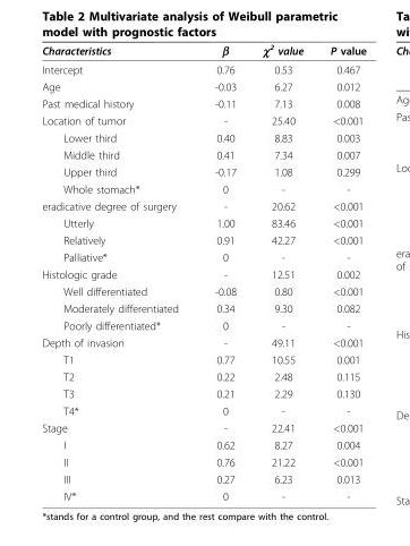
<table><thead><tr><td>Characteristics</td><td>β</td><td>χ<sup>2</sup> value</td><td>P value</td></tr></thead><tbody><tr><td>Intercept</td><td>0.76</td><td>0.53</td><td>0.467</td></tr><tr><td>Age</td><td>-0.03</td><td>6.27</td><td>0.012</td></tr><tr><td>Past medical history</td><td>-0.11</td><td>7.13</td><td>0.008</td></tr><tr><td>Location of tumor</td><td>-</td><td>25.40</td><td>&lt;0.001</td></tr><tr><td>Lower third</td><td>0.40</td><td>8.83</td><td>0.003</td></tr><tr><td>Middle third</td><td>0.41</td><td>7.34</td><td>0.007</td></tr><tr><td>Upper third</td><td>-0.17</td><td>1.08</td><td>0.299</td></tr><tr><td>Whole stomach*</td><td>0</td><td>-</td><td>-</td></tr><tr><td>eradicative degree of surgery</td><td>-</td><td>20.62</td><td>&lt;0.001</td></tr><tr><td>Utterly</td><td>1.00</td><td>83.46</td><td>&lt;0.001</td></tr><tr><td>Relatively</td><td>0.91</td><td>42.27</td><td>&lt;0.001</td></tr><tr><td>Palliative*</td><td>0</td><td>-</td><td>-</td></tr><tr><td>Histologic grade</td><td>-</td><td>12.51</td><td>0.002</td></tr><tr><td>Well differentiated</td><td>-0.08</td><td>0.80</td><td>&lt;0.001</td></tr><tr><td>Moderately differentiated</td><td>0.34</td><td>9.30</td><td>0.082</td></tr><tr><td>Poorly differentiated*</td><td>0</td><td>-</td><td>-</td></tr><tr><td>Depth of invasion</td><td>-</td><td>49.11</td><td>&lt;0.001</td></tr><tr><td>T1</td><td>0.77</td><td>10.55</td><td>0.001</td></tr><tr><td>T2</td><td>0.22</td><td>2.48</td><td>0.115</td></tr><tr><td>T3</td><td>0.21</td><td>2.29</td><td>0.130</td></tr><tr><td>T4*</td><td>0</td><td>-</td><td>-</td></tr><tr><td>Stage</td><td>-</td><td>22.41</td><td>&lt;0.001</td></tr><tr><td>I</td><td>0.62</td><td>8.27</td><td>0.004</td></tr><tr><td>II</td><td>0.76</td><td>21.22</td><td>&lt;0.001</td></tr><tr><td>III</td><td>0.27</td><td>6.23</td><td>0.013</td></tr><tr><td>IV*</td><td>0</td><td>-</td><td>-</td></tr></tbody></table>